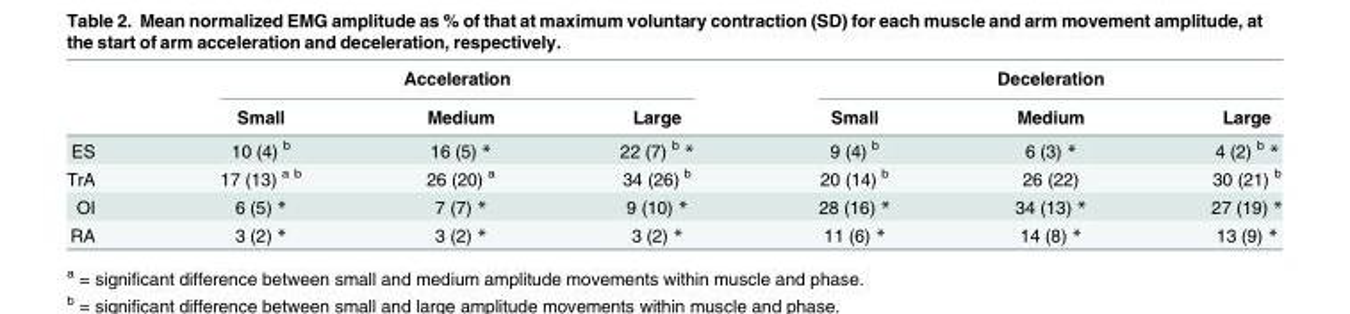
<table><thead><tr><td rowspan="2"></td><td colspan="3">Acceleration</td><td colspan="3">Deceleration</td></tr><tr><td>Small</td><td>Medium</td><td>Large</td><td>Small</td><td>Medium</td><td>Large</td></tr></thead><tbody><tr><td>ES</td><td>10 (4) <sup>b</sup></td><td>16 (5) *</td><td>22 (7) <sup>b</sup> *</td><td>9 (4) <sup>b</sup></td><td>6 (3) *</td><td>4 (2) <sup>b</sup> *</td></tr><tr><td>TrA</td><td>17 (13) <sup>a b</sup></td><td>26 (20) <sup>a</sup></td><td>34 (26) <sup>b</sup></td><td>20 (14) <sup>b</sup></td><td>26 (22)</td><td>30 (21) <sup>b</sup></td></tr><tr><td>OI</td><td>6 (5) *</td><td>7 (7) *</td><td>9 (10) *</td><td>28 (16) *</td><td>34 (13) *</td><td>27 (19) *</td></tr><tr><td>RA</td><td>3 (2) *</td><td>3 (2) *</td><td>3 (2) *</td><td>11 (6) *</td><td>14 (8) *</td><td>13 (9) *</td></tr></tbody></table>